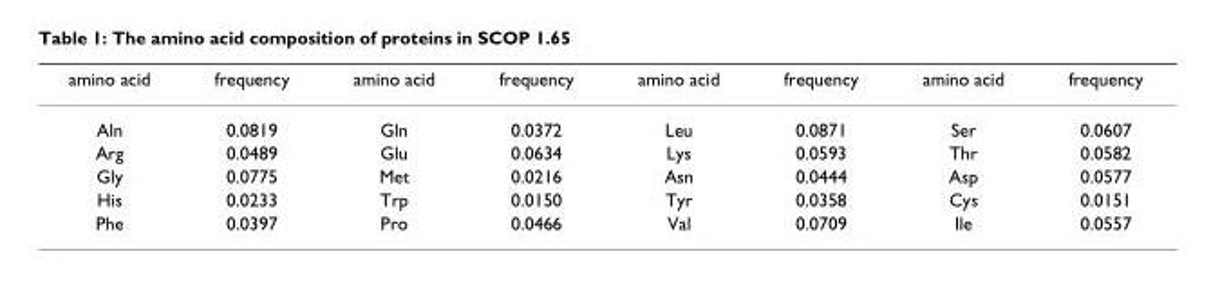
<table><thead><tr><td>amino acid</td><td>frequency</td><td>amino acid</td><td>frequency</td><td>amino acid</td><td>frequency</td><td>amino acid</td><td>frequency</td></tr></thead><tbody><tr><td>Aln</td><td>0.0819</td><td>Gln</td><td>0.0372</td><td>Leu</td><td>0.0871</td><td>Ser</td><td>0.0607</td></tr><tr><td>Arg</td><td>0.0489</td><td>Glu</td><td>0.0634</td><td>Lys</td><td>0.0593</td><td>Thr</td><td>0.0582</td></tr><tr><td>Gly</td><td>0.0775</td><td>Met</td><td>0.0216</td><td>Asn</td><td>0.0444</td><td>Asp</td><td>0.0577</td></tr><tr><td>His</td><td>0.0233</td><td>Trp</td><td>0.0150</td><td>Tyr</td><td>0.0358</td><td>Cys</td><td>0.0151</td></tr><tr><td>Phe</td><td>0.0397</td><td>Pro</td><td>0.0466</td><td>Val</td><td>0.0709</td><td>Ile</td><td>0.0557</td></tr></tbody></table>